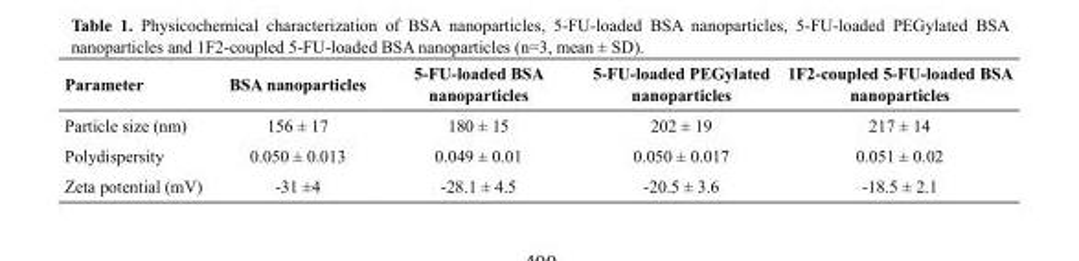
<table><thead><tr><td>Parameter</td><td>BSA nanoparticles</td><td>5-FU-loaded BSA nanoparticles</td><td>5-FU-loaded PEGylated nanoparticles</td><td>1F2-coupled 5-FU-loaded BSA nanoparticles</td></tr></thead><tbody><tr><td>Particle size (nm)</td><td>156 ± 17</td><td>180 ± 15</td><td>202 ± 19</td><td>217 ± 14</td></tr><tr><td>Polydispersity</td><td>0.050 ± 0.013</td><td>0.049 ± 0.01</td><td>0.050 ± 0.017</td><td>0.051 ± 0.02</td></tr><tr><td>Zeta potential (mV)</td><td>-31 ±4</td><td>-28.1 ± 4.5</td><td>-20.5 ± 3.6</td><td>-18.5 ± 2.1</td></tr></tbody></table>